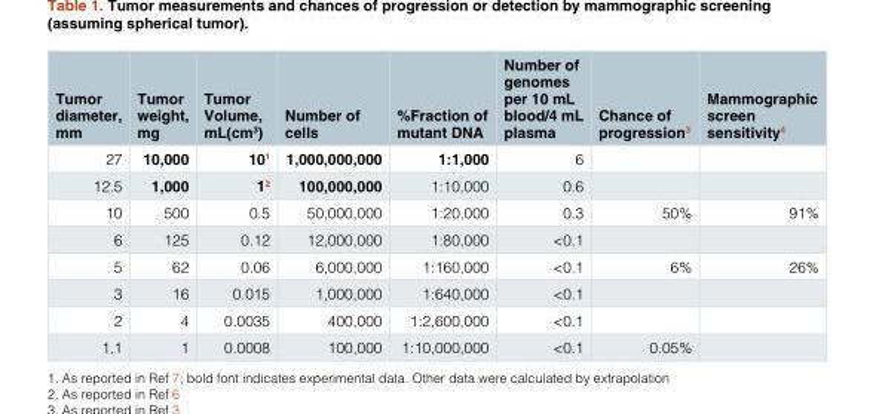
<table><thead><tr><td>Tumor diameter, mm</td><td>Tumor weight, mg</td><td>Tumor Volume, mL(cm<sup>3</sup>)</td><td>Number of cells</td><td>%Fraction of mutant DNA</td><td>Number of genomes per 10 mL blood/4 mL plasma</td><td>Chance of progression<sup>3</sup></td><td>Mammographic screen sensitivity<sup>4</sup></td></tr></thead><tbody><tr><td>27</td><td>10,000</td><td>10<sup>1</sup></td><td>1,000,000,000</td><td>1:1,000</td><td>6</td><td></td><td></td></tr><tr><td>12.5</td><td>1,000</td><td>1<sup>2</sup></td><td>100,000,000</td><td>1:10,000</td><td>0.6</td><td></td><td></td></tr><tr><td>10</td><td>500</td><td>0.5</td><td>50,000,000</td><td>1:20,000</td><td>0.3</td><td>50%</td><td>91%</td></tr><tr><td>6</td><td>125</td><td>0.12</td><td>12,000,000</td><td>1:80,000</td><td>&lt;0.1</td><td></td><td></td></tr><tr><td>5</td><td>62</td><td>0.06</td><td>6,000,000</td><td>1:160,000</td><td>&lt;0.1</td><td>6%</td><td>26%</td></tr><tr><td>3</td><td>16</td><td>0.015</td><td>1,000,000</td><td>1:640,000</td><td>&lt;0.1</td><td></td><td></td></tr><tr><td>2</td><td>4</td><td>0.0035</td><td>400,000</td><td>1:2,600,000</td><td>&lt;0.1</td><td></td><td></td></tr><tr><td>1.1</td><td>1</td><td>0.0008</td><td>100,000</td><td>1:10,000,000</td><td>&lt;0.1</td><td>0.05%</td><td></td></tr></tbody></table>